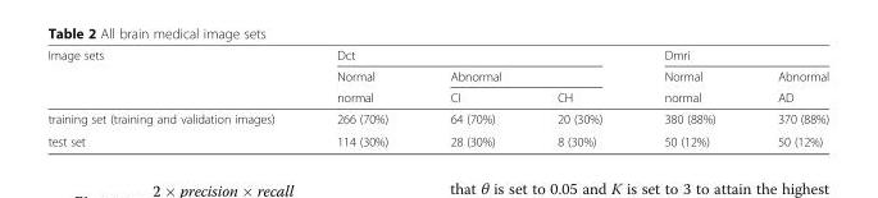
<table><thead><tr><td rowspan="3">Image sets</td><td colspan="3">Dct</td><td colspan="2">Dmri</td></tr><tr><td rowspan="2">Normal normal</td><td colspan="2">Abnormal</td><td rowspan="2">Normal normal</td><td rowspan="2">Abnormal AD</td></tr><tr><td>CI</td><td>CH</td></tr></thead><tbody><tr><td>training set (training and validation images)</td><td>266 (70%)</td><td>64 (70%)</td><td>20 (30%)</td><td>380 (88%)</td><td>370 (88%)</td></tr><tr><td>test set</td><td>114 (30%)</td><td>28 (30%)</td><td>8 (30%)</td><td>50 (12%)</td><td>50 (12%)</td></tr></tbody></table>